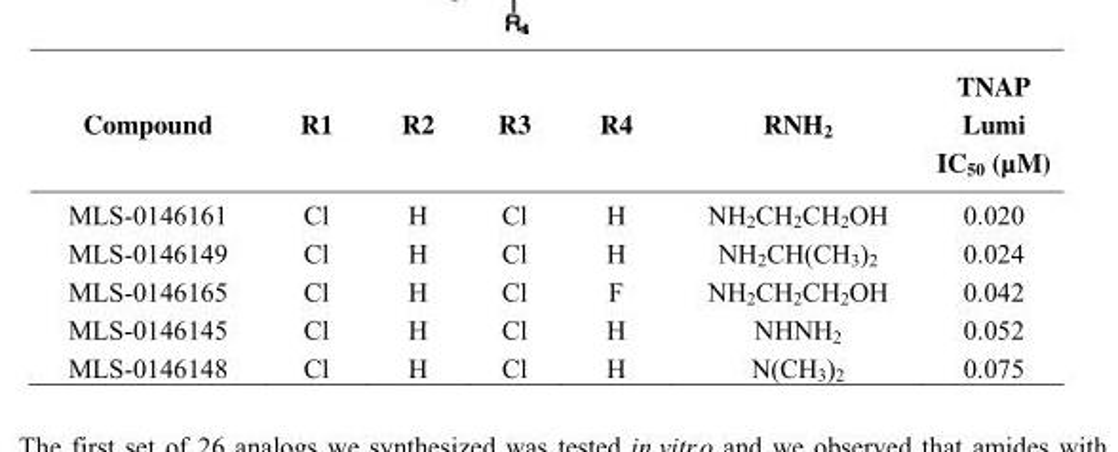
<table><thead><tr><td>Compound</td><td>R1</td><td>R2</td><td>R3</td><td>R4</td><td>RNH<sub>2</sub></td><td>TNAP Lumi IC<sub>50</sub> (µM)</td></tr></thead><tbody><tr><td>MLS-0146161</td><td>Cl</td><td>H</td><td>Cl</td><td>H</td><td>NH<sub>2</sub>CH<sub>2</sub>CH<sub>2</sub>OH</td><td>0.020</td></tr><tr><td>MLS-0146149</td><td>Cl</td><td>H</td><td>Cl</td><td>H</td><td>NH<sub>2</sub>CH(CH<sub>3</sub>)<sub>2</sub></td><td>0.024</td></tr><tr><td>MLS-0146165</td><td>Cl</td><td>H</td><td>Cl</td><td>F</td><td>NH<sub>2</sub>CH<sub>2</sub>CH<sub>2</sub>OH</td><td>0.042</td></tr><tr><td>MLS-0146145</td><td>Cl</td><td>H</td><td>Cl</td><td>H</td><td>NHNH<sub>2</sub></td><td>0.052</td></tr><tr><td>MLS-0146148</td><td>Cl</td><td>H</td><td>Cl</td><td>H</td><td>N(CH<sub>3</sub>)<sub>2</sub></td><td>0.075</td></tr></tbody></table>